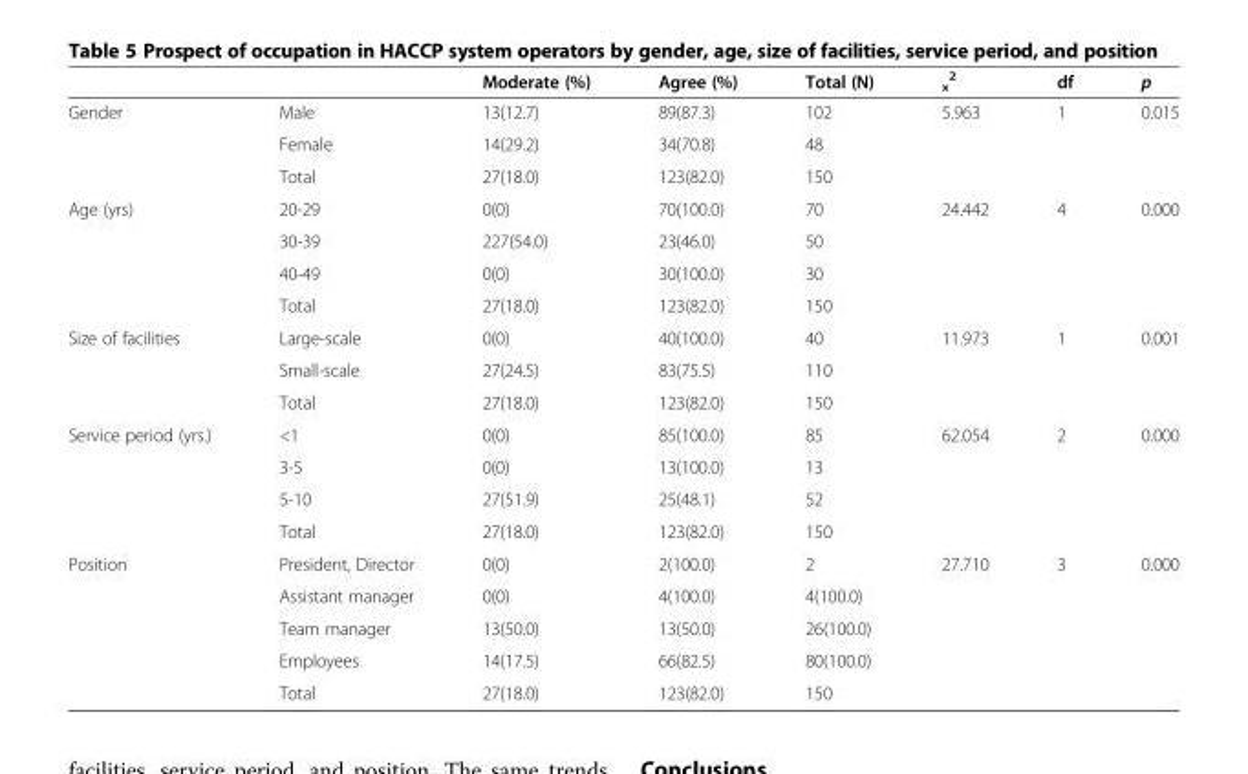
<table><thead><tr><td></td><td></td><td>Moderate (%)</td><td>Agree (%)</td><td>Total (N)</td><td><sub>x</sub> <sup>2</sup></td><td>df</td><td>p</td></tr></thead><tbody><tr><td rowspan="3">Gender</td><td>Male</td><td>13(12.7)</td><td>89(87.3)</td><td>102</td><td rowspan="2">5.963</td><td rowspan="2">1</td><td rowspan="2">0.015</td></tr><tr><td>Female</td><td>14(29.2)</td><td>34(70.8)</td><td>48</td></tr><tr><td>Total</td><td>27(18.0)</td><td>123(82.0)</td><td>150</td><td></td><td></td><td></td></tr><tr><td rowspan="4">Age (yrs)</td><td>20-29</td><td>0(0)</td><td>70(100.0)</td><td>70</td><td rowspan="3">24.442</td><td rowspan="3">4</td><td rowspan="3">0.000</td></tr><tr><td>30-39</td><td>227(54.0)</td><td>23(46.0)</td><td>50</td></tr><tr><td>40-49</td><td>0(0)</td><td>30(100.0)</td><td>30</td></tr><tr><td>Total</td><td>27(18.0)</td><td>123(82.0)</td><td>150</td><td></td><td></td><td></td></tr><tr><td rowspan="3">Size of facilities</td><td>Large-scale</td><td>0(0)</td><td>40(100.0)</td><td>40</td><td rowspan="2">11.973</td><td rowspan="2">1</td><td rowspan="2">0.001</td></tr><tr><td>Small-scale</td><td>27(24.5)</td><td>83(75.5)</td><td>110</td></tr><tr><td>Total</td><td>27(18.0)</td><td>123(82.0)</td><td>150</td><td></td><td></td><td></td></tr><tr><td rowspan="4">Service period (yrs.)</td><td>&lt;1</td><td>0(0)</td><td>85(100.0)</td><td>85</td><td>62.054</td><td>2</td><td>0.000</td></tr><tr><td>3-5</td><td>0(0)</td><td>13(100.0)</td><td>13</td><td></td><td></td><td></td></tr><tr><td>5-10</td><td>27(51.9)</td><td>25(48.1)</td><td>52</td><td></td><td></td><td></td></tr><tr><td>Total</td><td>27(18.0)</td><td>123(82.0)</td><td>150</td><td></td><td></td><td></td></tr><tr><td rowspan="5">Position</td><td>President, Director</td><td>0(0)</td><td>2(100.0)</td><td>2</td><td>27.710</td><td>3</td><td>0.000</td></tr><tr><td>Assistant manager</td><td>0(0)</td><td>4(100.0)</td><td>4(100.0)</td><td></td><td></td><td></td></tr><tr><td>Team manager</td><td>13(50.0)</td><td>13(50.0)</td><td>26(100.0)</td><td></td><td></td><td></td></tr><tr><td>Employees</td><td>14(17.5)</td><td>66(82.5)</td><td>80(100.0)</td><td></td><td></td><td></td></tr><tr><td>Total</td><td>27(18.0)</td><td>123(82.0)</td><td>150</td><td></td><td></td><td></td></tr></tbody></table>